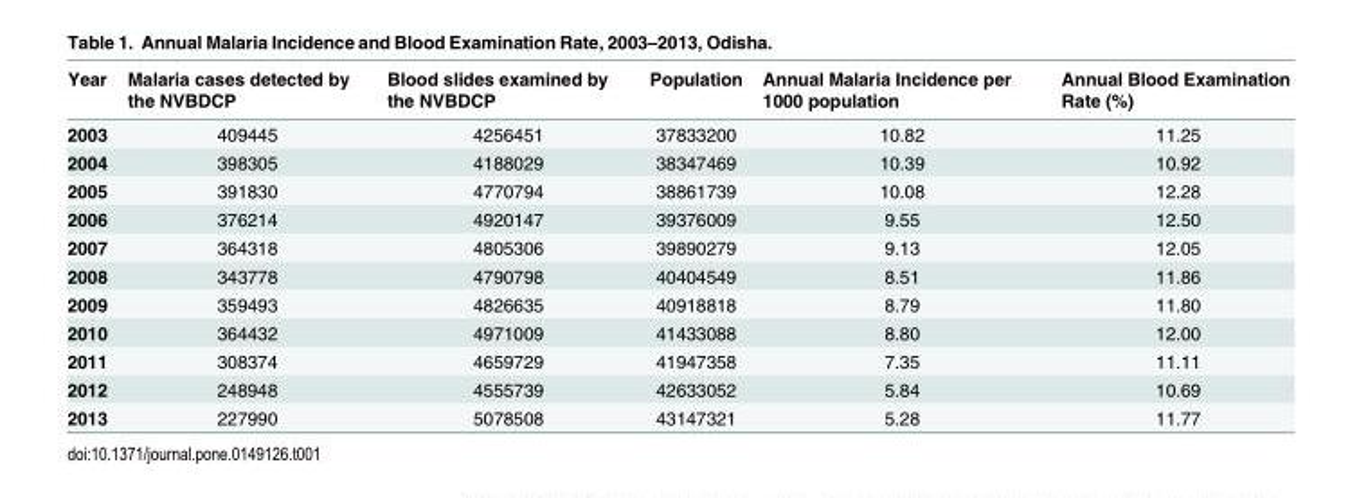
<table><thead><tr><td>Year</td><td>Malaria cases detected by the NVBDCP</td><td>Blood slides examined by the NVBDCP</td><td>Population</td><td>Annual Malaria Incidence per 1000 population</td><td>Annual Blood Examination Rate (%)</td></tr></thead><tbody><tr><td>2003</td><td>409445</td><td>4256451</td><td>37833200</td><td>10.82</td><td>11.25</td></tr><tr><td>2004</td><td>398305</td><td>4188029</td><td>38347469</td><td>10.39</td><td>10.92</td></tr><tr><td>2005</td><td>391830</td><td>4770794</td><td>38861739</td><td>10.08</td><td>12.28</td></tr><tr><td>2006</td><td>376214</td><td>4920147</td><td>39376009</td><td>9.55</td><td>12.50</td></tr><tr><td>2007</td><td>364318</td><td>4805306</td><td>39890279</td><td>9.13</td><td>12.05</td></tr><tr><td>2008</td><td>343778</td><td>4790798</td><td>40404549</td><td>8.51</td><td>11.86</td></tr><tr><td>2009</td><td>359493</td><td>4826635</td><td>40918818</td><td>8.79</td><td>11.80</td></tr><tr><td>2010</td><td>364432</td><td>4971009</td><td>41433088</td><td>8.80</td><td>12.00</td></tr><tr><td>2011</td><td>308374</td><td>4659729</td><td>41947358</td><td>7.35</td><td>11.11</td></tr><tr><td>2012</td><td>248948</td><td>4555739</td><td>42633052</td><td>5.84</td><td>10.69</td></tr><tr><td>2013</td><td>227990</td><td>5078508</td><td>43147321</td><td>5.28</td><td>11.77</td></tr></tbody></table>